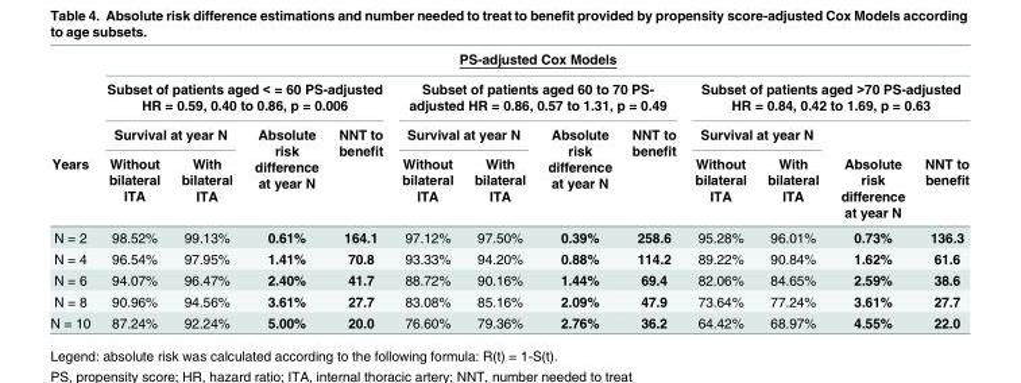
<table><thead><tr><td rowspan="4">Years</td><td colspan="12">PS-adjusted Cox Models</td></tr><tr><td colspan="4">Subset of patients aged &lt; = 60 PS-adjusted HR = 0.59, 0.40 to 0.86, p = 0.006</td><td colspan="4">Subset of patients aged 60 to 70 PS- adjusted HR = 0.86, 0.57 to 1.31, p = 0.49</td><td colspan="4">Subset of patients aged &gt;70 PS-adjusted HR = 0.84, 0.42 to 1.69, p = 0.63</td></tr><tr><td colspan="2">Survival at year N</td><td rowspan="2">Absolute risk difference at year N</td><td rowspan="2">NNT to benefit</td><td colspan="2">Survival at year N</td><td rowspan="2">Absolute risk difference at year N</td><td rowspan="2">NNT to benefit</td><td colspan="2">Survival at year N</td><td rowspan="2">Absolute risk difference at year N</td><td rowspan="2">NNT to benefit</td></tr><tr><td>Without bilateral ITA</td><td>With bilateral ITA</td><td>Without bilateral ITA</td><td>With bilateral ITA</td><td>Without bilateral ITA</td><td>With bilateral ITA</td></tr></thead><tbody><tr><td>N = 2</td><td>98.52%</td><td>99.13%</td><td>0.61%</td><td>164.1</td><td>97.12%</td><td>97.50%</td><td>0.39%</td><td>258.6</td><td>95.28%</td><td>96.01%</td><td>0.73%</td><td>136.3</td></tr><tr><td>N = 4</td><td>96.54%</td><td>97.95%</td><td>1.41%</td><td>70.8</td><td>93.33%</td><td>94.20%</td><td>0.88%</td><td>114.2</td><td>89.22%</td><td>90.84%</td><td>1.62%</td><td>61.6</td></tr><tr><td>N = 6</td><td>94.07%</td><td>96.47%</td><td>2.40%</td><td>41.7</td><td>88.72%</td><td>90.16%</td><td>1.44%</td><td>69.4</td><td>82.06%</td><td>84.65%</td><td>2.59%</td><td>38.6</td></tr><tr><td>N = 8</td><td>90.96%</td><td>94.56%</td><td>3.61%</td><td>27.7</td><td>83.08%</td><td>85.16%</td><td>2.09%</td><td>47.9</td><td>73.64%</td><td>77.24%</td><td>3.61%</td><td>27.7</td></tr><tr><td>N = 10</td><td>87.24%</td><td>92.24%</td><td>5.00%</td><td>20.0</td><td>76.60%</td><td>79.36%</td><td>2.76%</td><td>36.2</td><td>64.42%</td><td>68.97%</td><td>4.55%</td><td>22.0</td></tr></tbody></table>